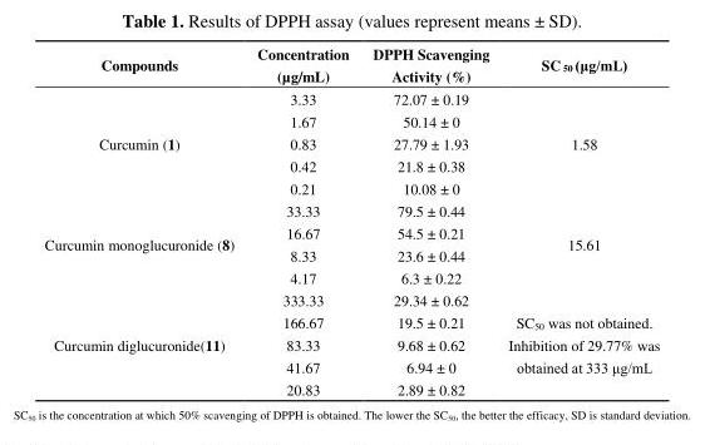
<table><thead><tr><td>Compounds</td><td>Concentration (µg/mL)</td><td>DPPH Scavenging Activity (%)</td><td>SC <sub>50</sub> (μg/mL)</td></tr></thead><tbody><tr><td rowspan="5">Curcumin (1)</td><td>3.33</td><td>72.07 ± 0.19</td><td rowspan="5">1.58</td></tr><tr><td>1.67</td><td>50.14 ± 0</td></tr><tr><td>0.83</td><td>27.79 ± 1.93</td></tr><tr><td>0.42</td><td>21.8 ± 0.38</td></tr><tr><td>0.21</td><td>10.08 ± 0</td></tr><tr><td rowspan="4">Curcumin monoglucuronide (8)</td><td>33.33</td><td>79.5 ± 0.44</td><td rowspan="4">15.61</td></tr><tr><td>16.67</td><td>54.5 ± 0.21</td></tr><tr><td>8.33</td><td>23.6 ± 0.44</td></tr><tr><td>4.17</td><td>6.3 ± 0.22</td></tr><tr><td rowspan="5">Curcumin diglucuronide(11)</td><td>333.33</td><td>29.34 ± 0.62</td><td rowspan="5">SC<sub>50</sub> was not obtained. Inhibition of 29.77% was obtained at 333 μg/mL</td></tr><tr><td>166.67</td><td>19.5 ± 0.21</td></tr><tr><td>83.33</td><td>9.68 ± 0.62</td></tr><tr><td>41.67</td><td>6.94 ± 0</td></tr><tr><td>20.83</td><td>2.89 ± 0.82</td></tr></tbody></table>